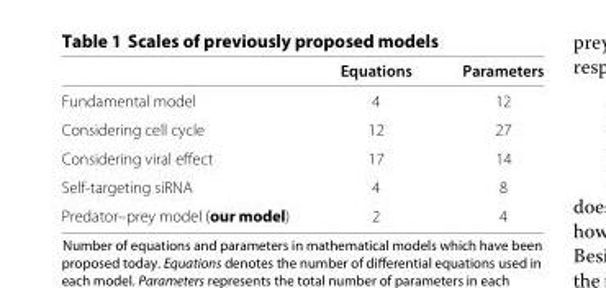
<table><thead><tr><td></td><td>Equations</td><td>Parameters</td></tr></thead><tbody><tr><td>Fundamental model</td><td>4</td><td>12</td></tr><tr><td>Considering cell cycle</td><td>12</td><td>27</td></tr><tr><td>Considering viral effect</td><td>17</td><td>14</td></tr><tr><td>Self-targeting siRNA</td><td>4</td><td>8</td></tr><tr><td>Predator–prey model (our model)</td><td>2</td><td>4</td></tr></tbody></table>